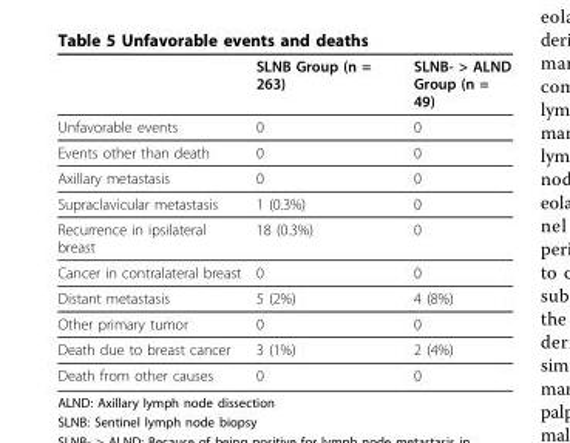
<table><thead><tr><td></td><td>SLNB Group (n = 263)</td><td>SLNB- &gt; ALND Group (n = 49)</td></tr></thead><tbody><tr><td>Unfavorable events</td><td>0</td><td>0</td></tr><tr><td>Events other than death</td><td>0</td><td>0</td></tr><tr><td>Axillary metastasis</td><td>0</td><td>0</td></tr><tr><td>Supraclavicular metastasis</td><td>1 (0.3%)</td><td>0</td></tr><tr><td>Recurrence in ipsilateral breast</td><td>18 (0.3%)</td><td>0</td></tr><tr><td>Cancer in contralateral breast</td><td>0</td><td>0</td></tr><tr><td>Distant metastasis</td><td>5 (2%)</td><td>4 (8%)</td></tr><tr><td>Other primary tumor</td><td>0</td><td>0</td></tr><tr><td>Death due to breast cancer</td><td>3 (1%)</td><td>2 (4%)</td></tr><tr><td>Death from other causes</td><td>0</td><td>0</td></tr></tbody></table>